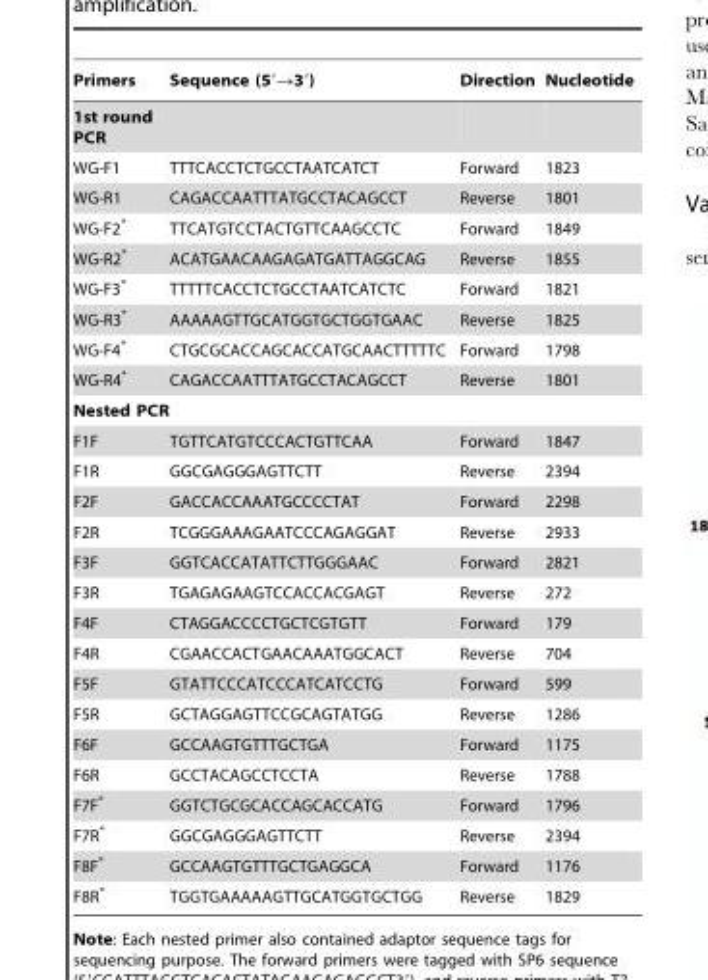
<table><thead><tr><td>Primers</td><td>Sequence (5′→3′)</td><td>Direction</td><td>Nucleotide</td></tr></thead><tbody><tr><td colspan="4">1st round PCR</td></tr><tr><td>WG-F1</td><td>TTTCACCTCTGCCTAATCATCT</td><td>Forward</td><td>1823</td></tr><tr><td>WG-R1</td><td>CAGACCAATTTATGCCTACAGCCT</td><td>Reverse</td><td>1801</td></tr><tr><td>WG-F2*</td><td>TTCATGTCCTACTGTTCAAGCCTC</td><td>Forward</td><td>1849</td></tr><tr><td>WG-R2*</td><td>ACATGAACAAGAGATGATTAGGCAG</td><td>Reverse</td><td>1855</td></tr><tr><td>WG-F3*</td><td>TTTTTCACCTCTGCCTAATCATCTC</td><td>Forward</td><td>1821</td></tr><tr><td>WG-R3*</td><td>AAAAAGTTGCATGGTGCTGGTGAAC</td><td>Reverse</td><td>1825</td></tr><tr><td>WG-F4*</td><td>CTGCGCACCAGCACCATGCAACTTTTTC</td><td>Forward</td><td>1798</td></tr><tr><td>WG-R4*</td><td>CAGACCAATTTATGCCTACAGCCT</td><td>Reverse</td><td>1801</td></tr><tr><td colspan="4">Nested PCR</td></tr><tr><td>F1F</td><td>TGTTCATGTCCCACTGTTCAA</td><td>Forward</td><td>1847</td></tr><tr><td>F1R</td><td>GGCGAGGGAGTTCTT</td><td>Reverse</td><td>2394</td></tr><tr><td>F2F</td><td>GACCACCAAATGCCCCTAT</td><td>Forward</td><td>2298</td></tr><tr><td>F2R</td><td>TCGGGAAAGAATCCCAGAGGAT</td><td>Reverse</td><td>2933</td></tr><tr><td>F3F</td><td>GGTCACCATATTCTTGGGAAC</td><td>Forward</td><td>2821</td></tr><tr><td>F3R</td><td>TGAGAGAAGTCCACCACGAGT</td><td>Reverse</td><td>272</td></tr><tr><td>F4F</td><td>CTAGGACCCCTGCTCGTGTT</td><td>Forward</td><td>179</td></tr><tr><td>F4R</td><td>CGAACCACTGAACAAATGGCACT</td><td>Reverse</td><td>704</td></tr><tr><td>F5F</td><td>GTATTCCCATCCCATCATCCTG</td><td>Forward</td><td>599</td></tr><tr><td>F5R</td><td>GCTAGGAGTTCCGCAGTATGG</td><td>Reverse</td><td>1286</td></tr><tr><td>F6F</td><td>GCCAAGTGTTTGCTGA</td><td>Forward</td><td>1175</td></tr><tr><td>F6R</td><td>GCCTACAGCCTCCTA</td><td>Reverse</td><td>1788</td></tr><tr><td>F7F*</td><td>GGTCTGCGCACCAGCACCATG</td><td>Forward</td><td>1796</td></tr><tr><td>F7R*</td><td>GGCGAGGGAGTTCTT</td><td>Reverse</td><td>2394</td></tr><tr><td>F8F*</td><td>GCCAAGTGTTTGCTGAGGCA</td><td>Forward</td><td>1176</td></tr><tr><td>F8R*</td><td>TGGTGAAAAAGTTGCATGGTGCTGG</td><td>Reverse</td><td>1829</td></tr></tbody></table>